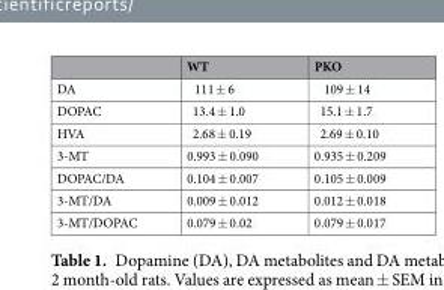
<table><thead><tr><td></td><td>WT</td><td>PKO</td></tr></thead><tbody><tr><td>DA</td><td>111 ± 6</td><td>109 ± 14</td></tr><tr><td>DOPAC</td><td>13.4 ± 1.0</td><td>15.1 ± 1.7</td></tr><tr><td>HVA</td><td>2.68 ± 0.19</td><td>2.69 ± 0.10</td></tr><tr><td>3-MT</td><td>0.993 ± 0.090</td><td>0.935 ± 0.209</td></tr><tr><td>DOPAC/DA</td><td>0.104 ± 0.007</td><td>0.105 ± 0.009</td></tr><tr><td>3-MT/DA</td><td>0.009 ± 0.012</td><td>0.012 ± 0.018</td></tr><tr><td>3-MT/DOPAC</td><td>0.079 ± 0.02</td><td>0.079 ± 0.017</td></tr></tbody></table>